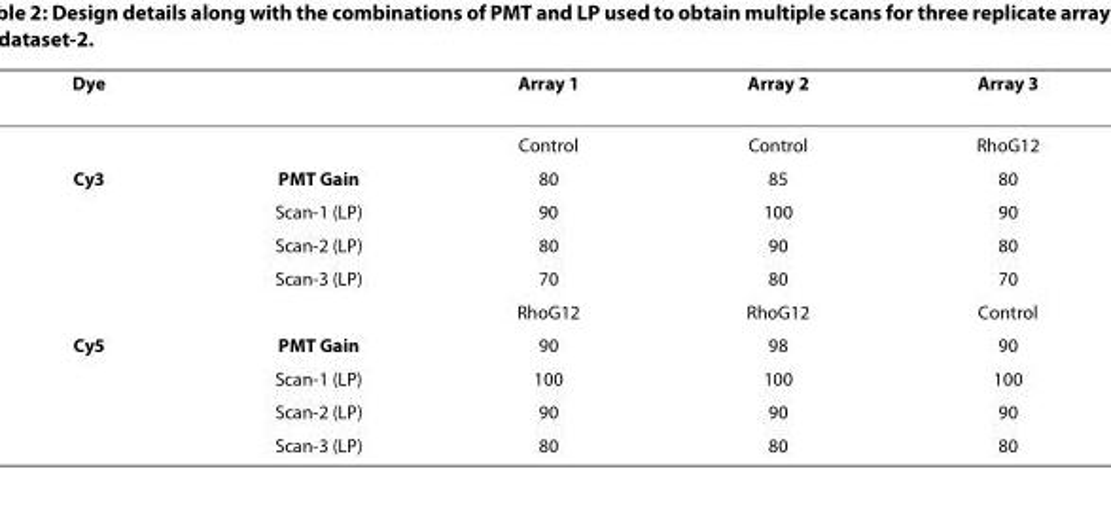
<table><thead><tr><td>Dye</td><td></td><td>Array 1</td><td>Array 2</td><td>Array 3</td></tr></thead><tbody><tr><td></td><td></td><td>Control</td><td>Control</td><td>RhoG12</td></tr><tr><td rowspan="5">Cy3</td><td>PMT Gain</td><td>80</td><td>85</td><td>80</td></tr><tr><td>Scan-1 (LP)</td><td>90</td><td>100</td><td>90</td></tr><tr><td>Scan-2 (LP)</td><td>80</td><td>90</td><td>80</td></tr><tr><td>Scan-3 (LP)</td><td>70</td><td>80</td><td>70</td></tr><tr><td></td><td>RhoG12</td><td>RhoG12</td><td>Control</td></tr><tr><td rowspan="4">Cy5</td><td>PMT Gain</td><td>90</td><td>98</td><td>90</td></tr><tr><td>Scan-1 (LP)</td><td>100</td><td>100</td><td>100</td></tr><tr><td>Scan-2 (LP)</td><td>90</td><td>90</td><td>90</td></tr><tr><td>Scan-3 (LP)</td><td>80</td><td>80</td><td>80</td></tr></tbody></table>